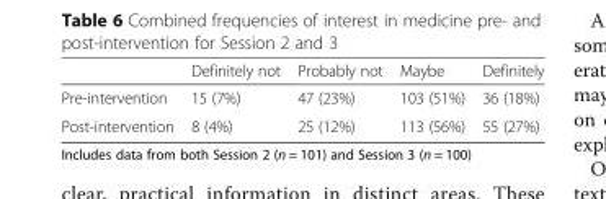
<table><thead><tr><td></td><td>Definitely not</td><td>Probably not</td><td>Maybe</td><td>Definitely</td></tr></thead><tbody><tr><td>Pre-intervention</td><td>15 (7%)</td><td>47 (23%)</td><td>103 (51%)</td><td>36 (18%)</td></tr><tr><td>Post-intervention</td><td>8 (4%)</td><td>25 (12%)</td><td>113 (56%)</td><td>55 (27%)</td></tr></tbody></table>